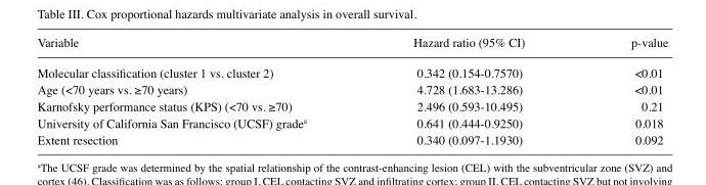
<table><thead><tr><td>Variable</td><td>Hazard ratio (95% CI)</td><td>p-value</td></tr></thead><tbody><tr><td>Molecular classification (cluster 1 vs. cluster 2)</td><td>0.342 (0.154-0.7570)</td><td>&lt;0.01</td></tr><tr><td>Age (&lt;70 years vs. ≥70 years)</td><td>4.728 (1.683-13.286)</td><td>&lt;0.01</td></tr><tr><td>Karnofsky performance status (KPS) (&lt;70 vs. ≥70)</td><td>2.496 (0.593-10.495)</td><td>0.21</td></tr><tr><td>University of California San Francisco (UCSF) grade<sup>a</sup></td><td>0.641 (0.444-0.9250)</td><td>0.018</td></tr><tr><td>Extent resection</td><td>0.340 (0.097-1.1930)</td><td>0.092</td></tr></tbody></table>